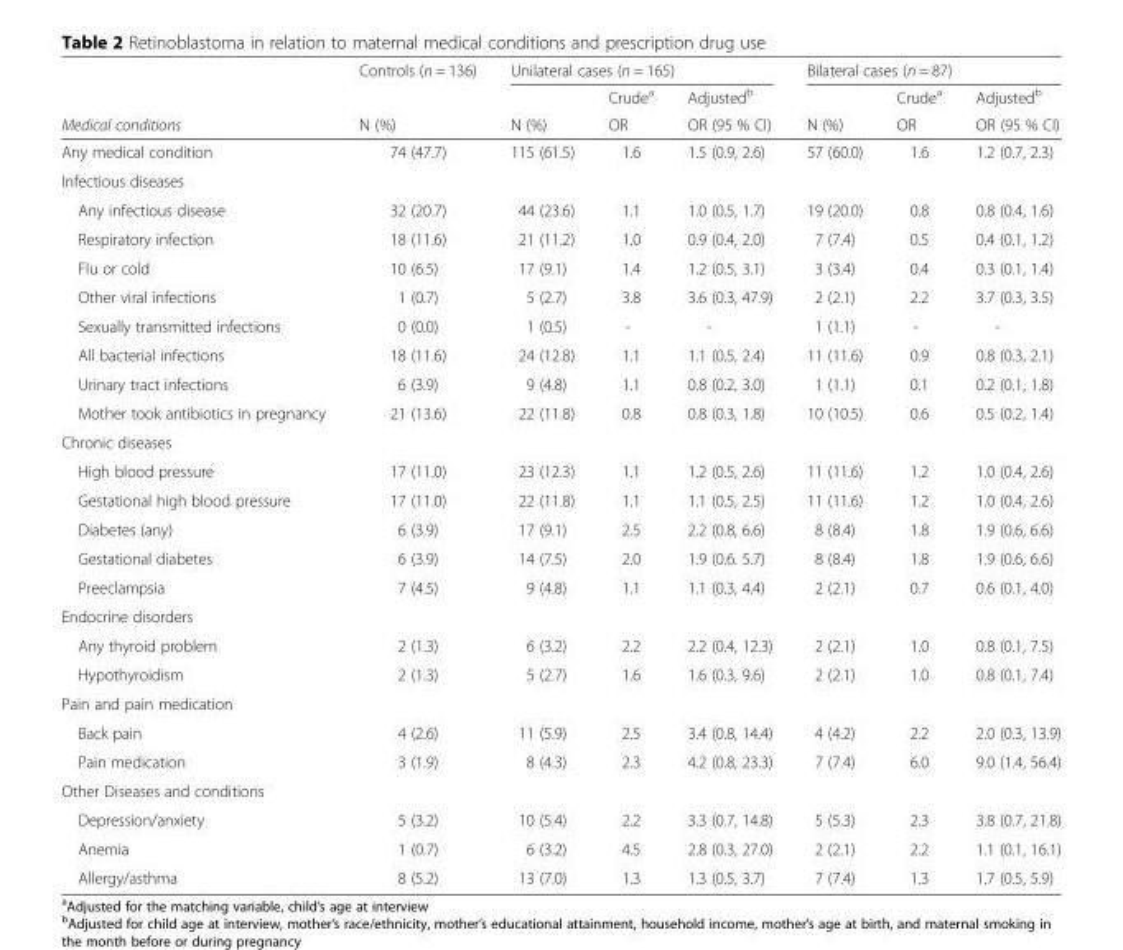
<table><thead><tr><td rowspan="3">Medical conditions</td><td rowspan="3">Controls (n = 136) N (%)</td><td colspan="3">Unilateral cases (n = 165)</td><td colspan="3">Bilateral cases (n = 87)</td></tr><tr><td rowspan="2">N (%)</td><td rowspan="2">Crude<sup>a</sup> OR</td><td rowspan="2">Adjusted<sup>b</sup> OR (95 % CI)</td><td rowspan="2">N (%)</td><td rowspan="2">Crude<sup>a</sup> OR</td><td rowspan="2">Adjusted<sup>b</sup> OR (95 % CI)</td></tr><tr></tr></thead><tbody><tr><td>Any medical condition</td><td>74 (47.7)</td><td>115 (61.5)</td><td>1.6</td><td>1.5 (0.9, 2.6)</td><td>57 (60.0)</td><td>1.6</td><td>1.2 (0.7, 2.3)</td></tr><tr><td colspan="8">Infectious diseases</td></tr><tr><td>Any infectious disease</td><td>32 (20.7)</td><td>44 (23.6)</td><td>1.1</td><td>1.0 (0.5, 1.7)</td><td>19 (20.0)</td><td>0.8</td><td>0.8 (0.4, 1.6)</td></tr><tr><td>Respiratory infection</td><td>18 (11.6)</td><td>21 (11.2)</td><td>1.0</td><td>0.9 (0.4, 2.0)</td><td>7 (7.4)</td><td>0.5</td><td>0.4 (0.1, 1.2)</td></tr><tr><td>Flu or cold</td><td>10 (6.5)</td><td>17 (9.1)</td><td>1.4</td><td>1.2 (0.5, 3.1)</td><td>3 (3.4)</td><td>0.4</td><td>0.3 (0.1, 1.4)</td></tr><tr><td>Other viral infections</td><td>1 (0.7)</td><td>5 (2.7)</td><td>3.8</td><td>3.6 (0.3, 47.9)</td><td>2 (2.1)</td><td>2.2</td><td>3.7 (0.3, 3.5)</td></tr><tr><td>Sexually transmitted infections</td><td>0 (0.0)</td><td>1 (0.5)</td><td>-</td><td>-</td><td>1 (1.1)</td><td>-</td><td>-</td></tr><tr><td>All bacterial infections</td><td>18 (11.6)</td><td>24 (12.8)</td><td>1.1</td><td>1.1 (0.5, 2.4)</td><td>11 (11.6)</td><td>0.9</td><td>0.8 (0.3, 2.1)</td></tr><tr><td>Urinary tract infections</td><td>6 (3.9)</td><td>9 (4.8)</td><td>1.1</td><td>0.8 (0.2, 3.0)</td><td>1 (1.1)</td><td>0.1</td><td>0.2 (0.1, 1.8)</td></tr><tr><td>Mother took antibiotics in pregnancy</td><td>21 (13.6)</td><td>22 (11.8)</td><td>0.8</td><td>0.8 (0.3, 1.8)</td><td>10 (10.5)</td><td>0.6</td><td>0.5 (0.2, 1.4)</td></tr><tr><td colspan="8">Chronic diseases</td></tr><tr><td>High blood pressure</td><td>17 (11.0)</td><td>23 (12.3)</td><td>1.1</td><td>1.2 (0.5, 2.6)</td><td>11 (11.6)</td><td>1.2</td><td>1.0 (0.4, 2.6)</td></tr><tr><td>Gestational high blood pressure</td><td>17 (11.0)</td><td>22 (11.8)</td><td>1.1</td><td>1.1 (0.5, 2.5)</td><td>11 (11.6)</td><td>1.2</td><td>1.0 (0.4, 2.6)</td></tr><tr><td>Diabetes (any)</td><td>6 (3.9)</td><td>17 (9.1)</td><td>2.5</td><td>2.2 (0.8, 6.6)</td><td>8 (8.4)</td><td>1.8</td><td>1.9 (0.6, 6.6)</td></tr><tr><td>Gestational diabetes</td><td>6 (3.9)</td><td>14 (7.5)</td><td>2.0</td><td>1.9 (0.6. 5.7)</td><td>8 (8.4)</td><td>1.8</td><td>1.9 (0.6, 6.6)</td></tr><tr><td>Preeclampsia</td><td>7 (4.5)</td><td>9 (4.8)</td><td>1.1</td><td>1.1 (0.3, 4.4)</td><td>2 (2.1)</td><td>0.7</td><td>0.6 (0.1, 4.0)</td></tr><tr><td colspan="8">Endocrine disorders</td></tr><tr><td>Any thyroid problem</td><td>2 (1.3)</td><td>6 (3.2)</td><td>2.2</td><td>2.2 (0.4, 12.3)</td><td>2 (2.1)</td><td>1.0</td><td>0.8 (0.1, 7.5)</td></tr><tr><td>Hypothyroidism</td><td>2 (1.3)</td><td>5 (2.7)</td><td>1.6</td><td>1.6 (0.3, 9.6)</td><td>2 (2.1)</td><td>1.0</td><td>0.8 (0.1, 7.4)</td></tr><tr><td colspan="8">Pain and pain medication</td></tr><tr><td>Back pain</td><td>4 (2.6)</td><td>11 (5.9)</td><td>2.5</td><td>3.4 (0.8, 14.4)</td><td>4 (4.2)</td><td>2.2</td><td>2.0 (0.3, 13.9)</td></tr><tr><td>Pain medication</td><td>3 (1.9)</td><td>8 (4.3)</td><td>2.3</td><td>4.2 (0.8, 23.3)</td><td>7 (7.4)</td><td>6.0</td><td>9.0 (1.4, 56.4)</td></tr><tr><td colspan="8">Other Diseases and conditions</td></tr><tr><td>Depression/anxiety</td><td>5 (3.2)</td><td>10 (5.4)</td><td>2.2</td><td>3.3 (0.7, 14.8)</td><td>5 (5.3)</td><td>2.3</td><td>3.8 (0.7, 21.8)</td></tr><tr><td>Anemia</td><td>1 (0.7)</td><td>6 (3.2)</td><td>4.5</td><td>2.8 (0.3, 27.0)</td><td>2 (2.1)</td><td>2.2</td><td>1.1 (0.1, 16.1)</td></tr><tr><td>Allergy/asthma</td><td>8 (5.2)</td><td>13 (7.0)</td><td>1.3</td><td>1.3 (0.5, 3.7)</td><td>7 (7.4)</td><td>1.3</td><td>1.7 (0.5, 5.9)</td></tr></tbody></table>